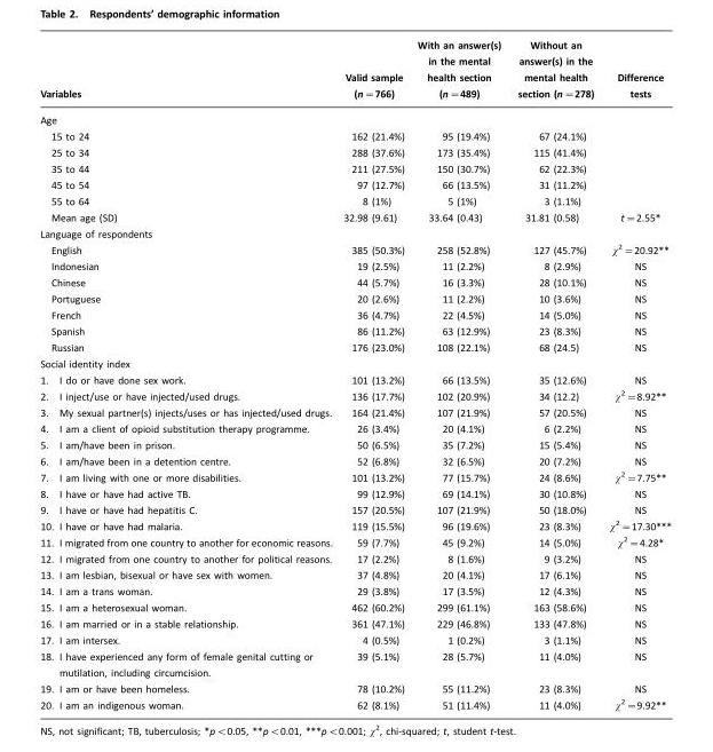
<table><thead><tr><td>Variables</td><td>Valid sample (n=766)</td><td>With an answer(s) in the mental health section (n=489)</td><td>Without an answer(s) in the mental health section (n=278)</td><td>Difference tests</td></tr></thead><tbody><tr><td colspan="5">Age</td></tr><tr><td>15 to 24</td><td>162 (21.4%)</td><td>95 (19.4%)</td><td>67 (24.1%)</td><td></td></tr><tr><td>25 to 34</td><td>288 (37.6%)</td><td>173 (35.4%)</td><td>115 (41.4%)</td><td></td></tr><tr><td>35 to 44</td><td>211 (27.5%)</td><td>150 (30.7%)</td><td>62 (22.3%)</td><td></td></tr><tr><td>45 to 54</td><td>97 (12.7%)</td><td>66 (13.5%)</td><td>31 (11.2%)</td><td></td></tr><tr><td>55 to 64</td><td>8 (1%)</td><td>5 (1%)</td><td>3 (1.1%)</td><td></td></tr><tr><td>Mean age (SD)</td><td>32.98 (9.61)</td><td>33.64 (0.43)</td><td>31.81 (0.58)</td><td>t=2.55*</td></tr><tr><td colspan="5">Language of respondents</td></tr><tr><td>English</td><td>385 (50.3%)</td><td>258 (52.8%)</td><td>127 (45.7%)</td><td>χ<sup>2</sup>=20.92**</td></tr><tr><td>Indonesian</td><td>19 (2.5%)</td><td>11 (2.2%)</td><td>8 (2.9%)</td><td>NS</td></tr><tr><td>Chinese</td><td>44 (5.7%)</td><td>16 (3.3%)</td><td>28 (10.1%)</td><td>NS</td></tr><tr><td>Portuguese</td><td>20 (2.6%)</td><td>11 (2.2%)</td><td>10 (3.6%)</td><td>NS</td></tr><tr><td>French</td><td>36 (4.7%)</td><td>22 (4.5%)</td><td>14 (5.0%)</td><td>NS</td></tr><tr><td>Spanish</td><td>86 (11.2%)</td><td>63 (12.9%)</td><td>23 (8.3%)</td><td>NS</td></tr><tr><td>Russian</td><td>176 (23.0%)</td><td>108 (22.1%)</td><td>68 (24.5)</td><td>NS</td></tr><tr><td colspan="5">Social identity index</td></tr><tr><td>1. I do or have done sex work.</td><td>101 (13.2%)</td><td>66 (13.5%)</td><td>35 (12.6%)</td><td>NS</td></tr><tr><td>2. I inject/use or have injected/used drugs.</td><td>136 (17.7%)</td><td>102 (20.9%)</td><td>34 (12.2)</td><td>χ<sup>2</sup>=8.92**</td></tr><tr><td>3. My sexual partner(s) injects/uses or has injected/used drugs.</td><td>164 (21.4%)</td><td>107 (21.9%)</td><td>57 (20.5%)</td><td>NS</td></tr><tr><td>4. I am a client of opioid substitution therapy programme.</td><td>26 (3.4%)</td><td>20 (4.1%)</td><td>6 (2.2%)</td><td>NS</td></tr><tr><td>5. I am/have been in prison.</td><td>50 (6.5%)</td><td>35 (7.2%)</td><td>15 (5.4%)</td><td>NS</td></tr><tr><td>6. I am/have been in a detention centre.</td><td>52 (6.8%)</td><td>32 (6.5%)</td><td>20 (7.2%)</td><td>NS</td></tr><tr><td>7. I am living with one or more disabilities.</td><td>101 (13.2%)</td><td>77 (15.7%)</td><td>24 (8.6%)</td><td>χ<sup>2</sup>=7.75**</td></tr><tr><td>8. I have or have had active TB.</td><td>99 (12.9%)</td><td>69 (14.1%)</td><td>30 (10.8%)</td><td>NS</td></tr><tr><td>9. I have or have had hepatitis C.</td><td>157 (20.5%)</td><td>107 (21.9%)</td><td>50 (18.0%)</td><td>NS</td></tr><tr><td>10. I have or have had malaria.</td><td>119 (15.5%)</td><td>96 (19.6%)</td><td>23 (8.3%)</td><td>χ<sup>2</sup>=17.30***</td></tr><tr><td>11. I migrated from one country to another for economic reasons.</td><td>59 (7.7%)</td><td>45 (9.2%)</td><td>14 (5.0%)</td><td>χ<sup>2</sup>=4.28*</td></tr><tr><td>12. I migrated from one country to another for political reasons.</td><td>17 (2.2%)</td><td>8 (1.6%)</td><td>9 (3.2%)</td><td>NS</td></tr><tr><td>13. I am lesbian, bisexual or have sex with women.</td><td>37 (4.8%)</td><td>20 (4.1%)</td><td>17 (6.1%)</td><td>NS</td></tr><tr><td>14. I am a trans woman.</td><td>29 (3.8%)</td><td>17 (3.5%)</td><td>12 (4.3%)</td><td>NS</td></tr><tr><td>15. I am a heterosexual woman.</td><td>462 (60.2%)</td><td>299 (61.1%)</td><td>163 (58.6%)</td><td>NS</td></tr><tr><td>16. I am married or in a stable relationship.</td><td>361 (47.1%)</td><td>229 (46.8%)</td><td>133 (47.8%)</td><td>NS</td></tr><tr><td>17. I am intersex.</td><td>4 (0.5%)</td><td>1 (0.2%)</td><td>3 (1.1%)</td><td>NS</td></tr><tr><td>18. I have experienced any form of female genital cutting or mutilation, including circumcision.</td><td>39 (5.1%)</td><td>28 (5.7%)</td><td>11 (4.0%)</td><td>NS</td></tr><tr><td>19. I am or have been homeless.</td><td>78 (10.2%)</td><td>55 (11.2%)</td><td>23 (8.3%)</td><td>NS</td></tr><tr><td>20. I am an indigenous woman.</td><td>62 (8.1%)</td><td>51 (11.4%)</td><td>11 (4.0%)</td><td>χ<sup>2</sup>=9.92**</td></tr></tbody></table>